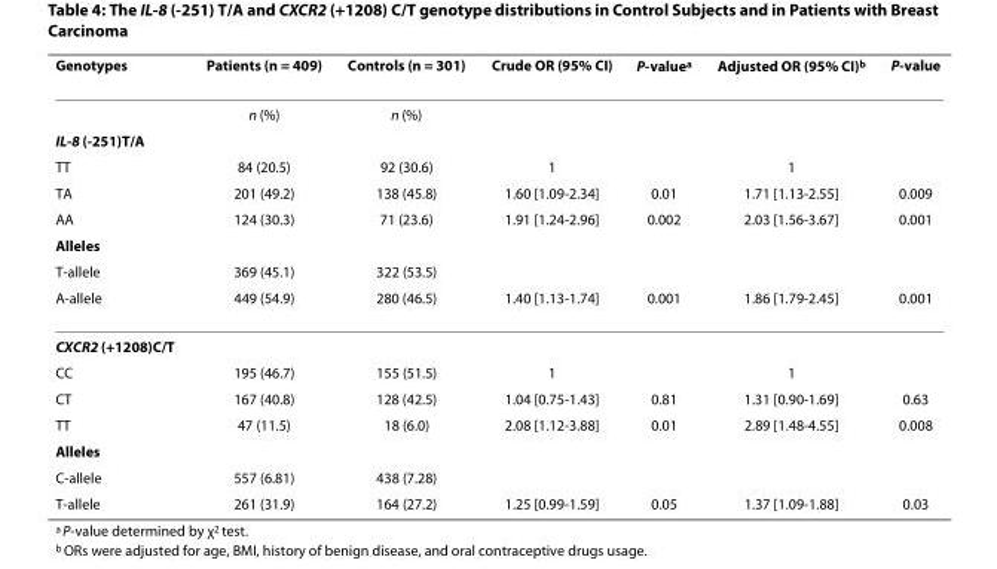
<table><thead><tr><td>Genotypes</td><td>Patients (n = 409)</td><td>Controls (n = 301)</td><td>Crude OR (95% CI)</td><td>P-value<sup>a</sup></td><td>Adjusted OR (95% CI)<sup>b</sup></td><td>P-value</td></tr></thead><tbody><tr><td></td><td>n (%)</td><td>n (%)</td><td></td><td></td><td></td><td></td></tr><tr><td colspan="7">IL-8 (-251)T/A</td></tr><tr><td>TT</td><td>84 (20.5)</td><td>92 (30.6)</td><td>1</td><td></td><td>1</td><td></td></tr><tr><td>TA</td><td>201 (49.2)</td><td>138 (45.8)</td><td>1.60 [1.09-2.34]</td><td>0.01</td><td>1.71 [1.13-2.55]</td><td>0.009</td></tr><tr><td>AA</td><td>124 (30.3)</td><td>71 (23.6)</td><td>1.91 [1.24-2.96]</td><td>0.002</td><td>2.03 [1.56-3.67]</td><td>0.001</td></tr><tr><td colspan="7">Alleles</td></tr><tr><td>T-allele</td><td>369 (45.1)</td><td>322 (53.5)</td><td></td><td></td><td></td><td></td></tr><tr><td>A-allele</td><td>449 (54.9)</td><td>280 (46.5)</td><td>1.40 [1.13-1.74]</td><td>0.001</td><td>1.86 [1.79-2.45]</td><td>0.001</td></tr><tr><td colspan="7">CXCR2 (+1208)C/T</td></tr><tr><td>CC</td><td>195 (46.7)</td><td>155 (51.5)</td><td>1</td><td></td><td>1</td><td></td></tr><tr><td>CT</td><td>167 (40.8)</td><td>128 (42.5)</td><td>1.04 [0.75-1.43]</td><td>0.81</td><td>1.31 [0.90-1.69]</td><td>0.63</td></tr><tr><td>TT</td><td>47 (11.5)</td><td>18 (6.0)</td><td>2.08 [1.12-3.88]</td><td>0.01</td><td>2.89 [1.48-4.55]</td><td>0.008</td></tr><tr><td colspan="7">Alleles</td></tr><tr><td>C-allele</td><td>557 (6.81)</td><td>438 (7.28)</td><td></td><td></td><td></td><td></td></tr><tr><td>T-allele</td><td>261 (31.9)</td><td>164 (27.2)</td><td>1.25 [0.99-1.59]</td><td>0.05</td><td>1.37 [1.09-1.88]</td><td>0.03</td></tr></tbody></table>